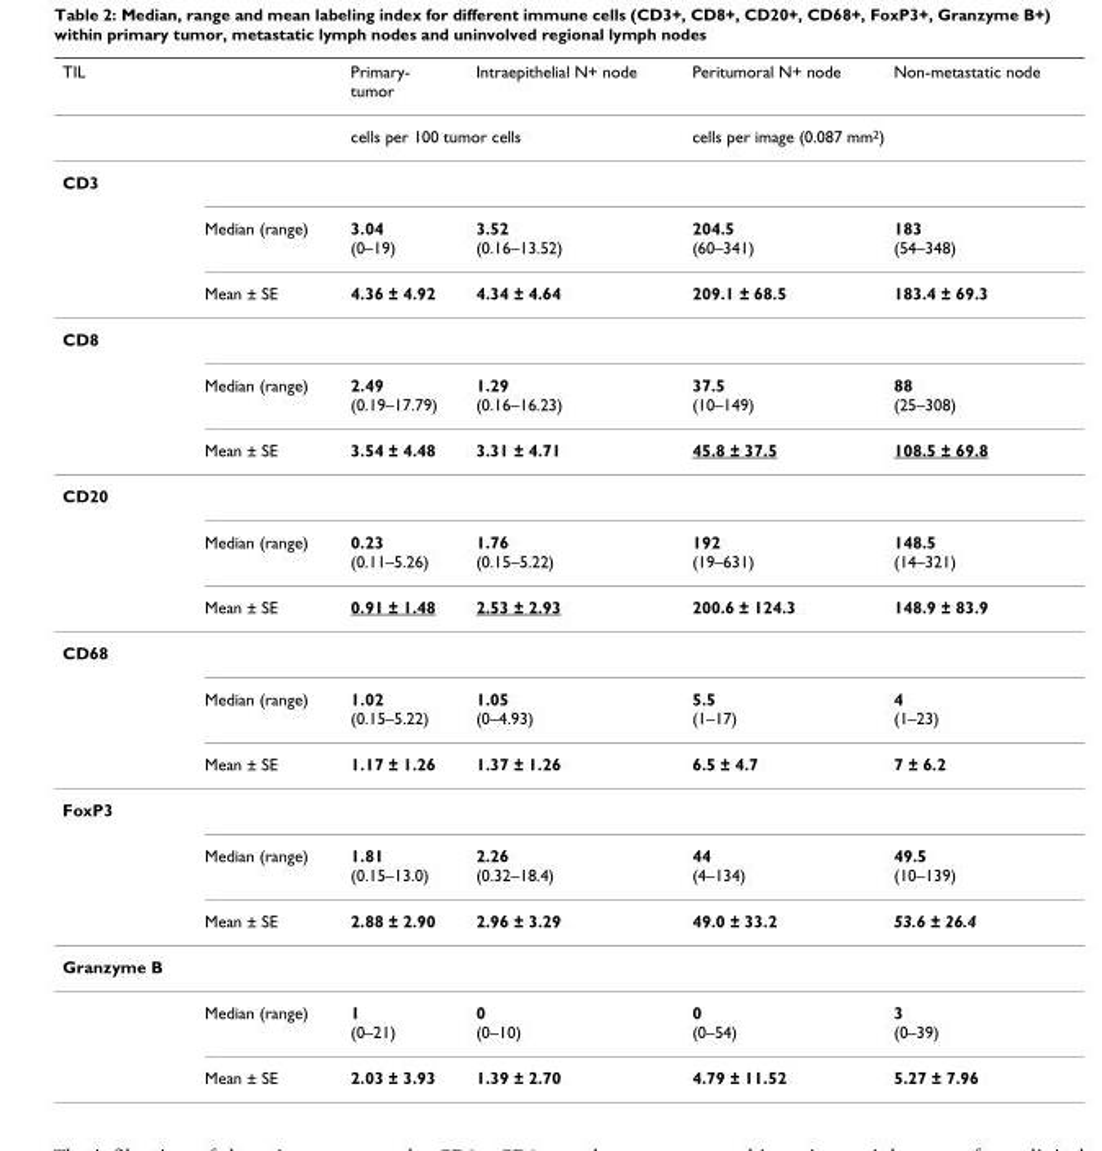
<table><thead><tr><td>TIL</td><td></td><td>Primary- tumor</td><td>Intraepithelial N+ node</td><td>Peritumoral N+ node</td><td>Non-metastatic node</td></tr></thead><tbody><tr><td></td><td></td><td colspan="2">cells per 100 tumor cells</td><td colspan="2">cells per image (0.087 mm<sup>2</sup>)</td></tr><tr><td colspan="6">CD3</td></tr><tr><td></td><td>Median (range)</td><td>3.04 (0–19)</td><td>3.52 (0.16–13.52)</td><td>204.5 (60–341)</td><td>183 (54–348)</td></tr><tr><td></td><td>Mean ± SE</td><td>4.36 ± 4.92</td><td>4.34 ± 4.64</td><td>209.1 ± 68.5</td><td>183.4 ± 69.3</td></tr><tr><td colspan="6">CD8</td></tr><tr><td></td><td>Median (range)</td><td>2.49 (0.19–17.79)</td><td>1.29 (0.16–16.23)</td><td>37.5 (10–149)</td><td>88 (25–308)</td></tr><tr><td></td><td>Mean ± SE</td><td>3.54 ± 4.48</td><td>3.31 ± 4.71</td><td>45.8 ± 37.5</td><td>108.5 ± 69.8</td></tr><tr><td colspan="6">CD20</td></tr><tr><td></td><td>Median (range)</td><td>0.23 (0.11–5.26)</td><td>1.76 (0.15–5.22)</td><td>192 (19–631)</td><td>148.5 (14–321)</td></tr><tr><td></td><td>Mean ± SE</td><td>0.91 ± 1.48</td><td>2.53 ± 2.93</td><td>200.6 ± 124.3</td><td>148.9 ± 83.9</td></tr><tr><td colspan="6">CD68</td></tr><tr><td></td><td>Median (range)</td><td>1.02 (0.15–5.22)</td><td>1.05 (0–4.93)</td><td>5.5 (1–17)</td><td>4 (1–23)</td></tr><tr><td></td><td>Mean ± SE</td><td>1.17 ± 1.26</td><td>1.37 ± 1.26</td><td>6.5 ± 4.7</td><td>7 ± 6.2</td></tr><tr><td colspan="6">FoxP3</td></tr><tr><td></td><td>Median (range)</td><td>1.81 (0.15–13.0)</td><td>2.26 (0.32–18.4)</td><td>44 (4–134)</td><td>49.5 (10–139)</td></tr><tr><td></td><td>Mean ± SE</td><td>2.88 ± 2.90</td><td>2.96 ± 3.29</td><td>49.0 ± 33.2</td><td>53.6 ± 26.4</td></tr><tr><td colspan="6">Granzyme B</td></tr><tr><td></td><td>Median (range)</td><td>1 (0–21)</td><td>0 (0–10)</td><td>0 (0–54)</td><td>3 (0–39)</td></tr><tr><td></td><td>Mean ± SE</td><td>2.03 ± 3.93</td><td>1.39 ± 2.70</td><td>4.79 ± 11.52</td><td>5.27 ± 7.96</td></tr></tbody></table>